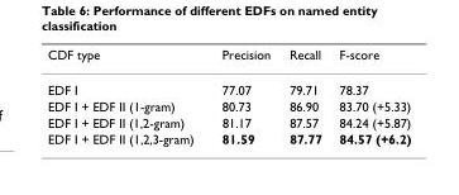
<table><thead><tr><td>CDF type</td><td>Precision</td><td>Recall</td><td>F-score</td></tr></thead><tbody><tr><td>EDF I</td><td>77.07</td><td>79.71</td><td>78.37</td></tr><tr><td>EDF I + EDF II (1-gram)</td><td>80.73</td><td>86.90</td><td>83.70 (+5.33)</td></tr><tr><td>EDF I + EDF II (1,2-gram)</td><td>81.17</td><td>87.57</td><td>84.24 (+5.87)</td></tr><tr><td>EDF I + EDF II (1,2,3-gram)</td><td>81.59</td><td>87.77</td><td>84.57 (+6.2)</td></tr></tbody></table>